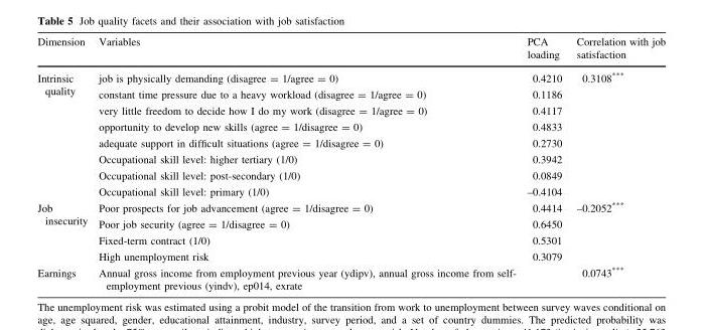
<table><thead><tr><td>Dimension</td><td>Variables</td><td>PCA loading</td><td>Correlation with job satisfaction</td></tr></thead><tbody><tr><td rowspan="8">Intrinsic quality</td><td>job is physically demanding (disagree = 1/agree = 0)</td><td>0.4210</td><td>0.3108***</td></tr><tr><td>constant time pressure due to a heavy workload (disagree = 1/agree = 0)</td><td>0.1186</td><td></td></tr><tr><td>very little freedom to decide how I do my work (disagree = 1/agree = 0)</td><td>0.4117</td><td></td></tr><tr><td>opportunity to develop new skills (agree = 1/disagree = 0)</td><td>0.4833</td><td></td></tr><tr><td>adequate support in difficult situations (agree = 1/disagree = 0)</td><td>0.2730</td><td></td></tr><tr><td>Occupational skill level: higher tertiary (1/0)</td><td>0.3942</td><td></td></tr><tr><td>Occupational skill level: post-secondary (1/0)</td><td>0.0849</td><td></td></tr><tr><td>Occupational skill level: primary (1/0)</td><td>–0.4104</td><td></td></tr><tr><td rowspan="4">Job insecurity</td><td>Poor prospects for job advancement (agree = 1/disagree = 0)</td><td>0.4414</td><td>–0.2052***</td></tr><tr><td>Poor job security (agree = 1/disagree = 0)</td><td>0.6450</td><td></td></tr><tr><td>Fixed-term contract (1/0)</td><td>0.5301</td><td></td></tr><tr><td>High unemployment risk</td><td>0.3079</td><td></td></tr><tr><td>Earnings</td><td>Annual gross income from employment previous year (ydipv), annual gross income from self- employment previous (yindv), ep014, exrate</td><td></td><td>0.0743***</td></tr></tbody></table>